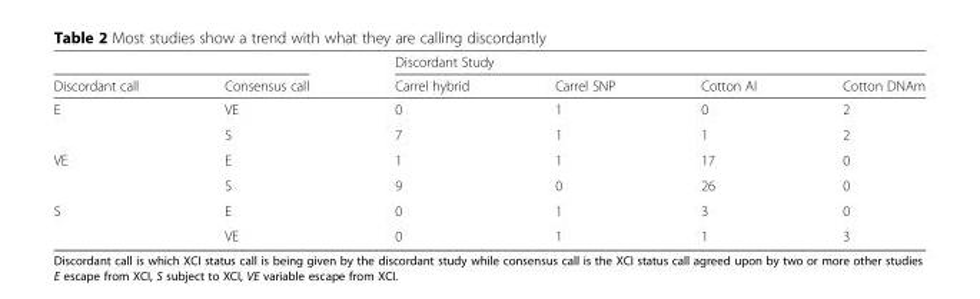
<table><thead><tr><td rowspan="2">Discordant call</td><td rowspan="2">Consensus call</td><td colspan="4">Discordant Study</td></tr><tr><td>Carrel hybrid</td><td>Carrel SNP</td><td>Cotton AI</td><td>Cotton DNAm</td></tr></thead><tbody><tr><td rowspan="2">E</td><td>VE</td><td>0</td><td>1</td><td>0</td><td>2</td></tr><tr><td>S</td><td>7</td><td>1</td><td>1</td><td>2</td></tr><tr><td rowspan="2">VE</td><td>E</td><td>1</td><td>1</td><td>17</td><td>0</td></tr><tr><td>S</td><td>9</td><td>0</td><td>26</td><td>0</td></tr><tr><td rowspan="2">S</td><td>E</td><td>0</td><td>1</td><td>3</td><td>0</td></tr><tr><td>VE</td><td>0</td><td>1</td><td>1</td><td>3</td></tr></tbody></table>